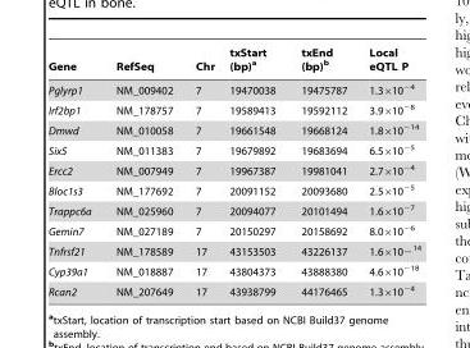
<table><thead><tr><td>Gene</td><td>RefSeq</td><td>Chr</td><td>txStart (bp)<sup>a</sup></td><td>txEnd (bp)<sup>b</sup></td><td>Local eQTL P</td></tr></thead><tbody><tr><td>Pglyrp1</td><td>NM_009402</td><td>7</td><td>19470038</td><td>19475787</td><td>1.3×10<sup>−4</sup></td></tr><tr><td>Irf2bp1</td><td>NM_178757</td><td>7</td><td>19589413</td><td>19592112</td><td>3.9×10<sup>−8</sup></td></tr><tr><td>Dmwd</td><td>NM_010058</td><td>7</td><td>19661548</td><td>19668124</td><td>1.8×10<sup>−14</sup></td></tr><tr><td>Six5</td><td>NM_011383</td><td>7</td><td>19679892</td><td>19683694</td><td>6.5×10<sup>−5</sup></td></tr><tr><td>Ercc2</td><td>NM_007949</td><td>7</td><td>19967387</td><td>19981041</td><td>2.7×10<sup>−4</sup></td></tr><tr><td>Bloc1s3</td><td>NM_177692</td><td>7</td><td>20091152</td><td>20093680</td><td>2.5×10<sup>−5</sup></td></tr><tr><td>Trappc6a</td><td>NM_025960</td><td>7</td><td>20094077</td><td>20101494</td><td>1.6×10<sup>−7</sup></td></tr><tr><td>Gemin7</td><td>NM_027189</td><td>7</td><td>20150297</td><td>20158692</td><td>8.0×10<sup>−6</sup></td></tr><tr><td>Tnfrsf21</td><td>NM_178589</td><td>17</td><td>43153503</td><td>43226137</td><td>1.6×10−<sup>14</sup></td></tr><tr><td>Cyp39a1</td><td>NM_018887</td><td>17</td><td>43804373</td><td>43888380</td><td>4.6×10<sup>−18</sup></td></tr><tr><td>Rcan2</td><td>NM_207649</td><td>17</td><td>43938799</td><td>44176465</td><td>1.3×10<sup>−4</sup></td></tr></tbody></table>